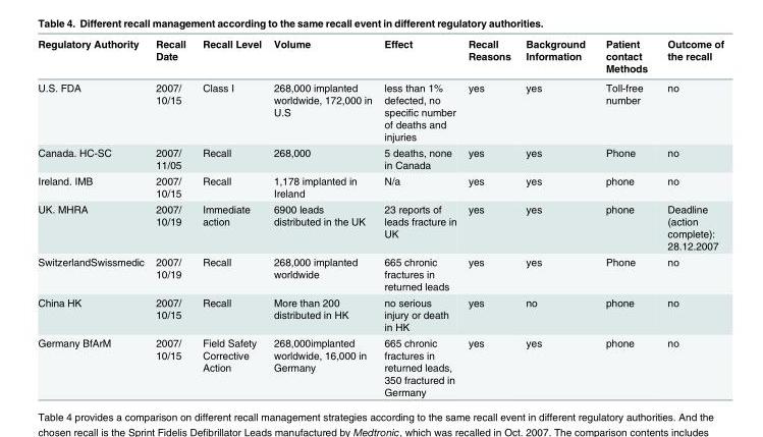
<table><thead><tr><td>Regulatory Authority</td><td>Recall Date</td><td>Recall Level</td><td>Volume</td><td>Effect</td><td>Recall Reasons</td><td>Background Information</td><td>Patient contact Methods</td><td>Outcome of the recall</td></tr></thead><tbody><tr><td>U.S. FDA</td><td>2007/ 10/15</td><td>Class I</td><td>268,000 implanted worldwide, 172,000 in U.S</td><td>less than 1% defected, no specific number of deaths and injuries</td><td>yes</td><td>yes</td><td>Toll-free number</td><td>no</td></tr><tr><td>Canada. HC-SC</td><td>2007/ 11/05</td><td>Recall</td><td>268,000</td><td>5 deaths, none in Canada</td><td>yes</td><td>yes</td><td>Phone</td><td>no</td></tr><tr><td>Ireland. IMB</td><td>2007/ 10/15</td><td>Recall</td><td>1,178 implanted in Ireland</td><td>N/a</td><td>yes</td><td>yes</td><td>phone</td><td>no</td></tr><tr><td>UK. MHRA</td><td>2007/ 10/19</td><td>Immediate action</td><td>6900 leads distributed in the UK</td><td>23 reports of leads fracture in UK</td><td>yes</td><td>yes</td><td>phone</td><td>Deadline (action complete): 28.12.2007</td></tr><tr><td>SwitzerlandSwissmedic</td><td>2007/ 10/19</td><td>Recall</td><td>268,000 implanted worldwide</td><td>665 chronic fractures in returned leads</td><td>yes</td><td>yes</td><td>Phone</td><td>no</td></tr><tr><td>China HK</td><td>2007/ 10/15</td><td>Recall</td><td>More than 200 distributed in HK</td><td>no serious injury or death in HK</td><td>yes</td><td>no</td><td>phone</td><td>no</td></tr><tr><td>Germany BfArM</td><td>2007/ 10/15</td><td>Field Safety Corrective Action</td><td>268,000implanted worldwide, 16,000 in Germany</td><td>665 chronic fractures in returned leads, 350 fractured in Germany</td><td>yes</td><td>yes</td><td>phone</td><td>no</td></tr></tbody></table>